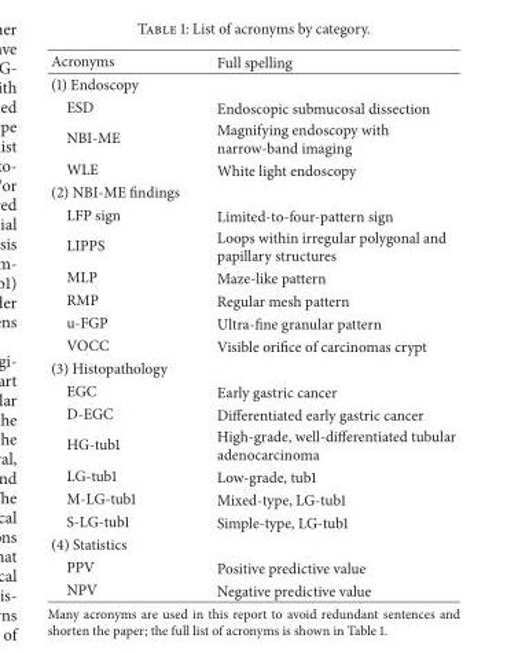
<table><thead><tr><td>Acronyms</td><td>Full spelling</td></tr></thead><tbody><tr><td colspan="2">(1) Endoscopy</td></tr><tr><td>ESD</td><td>Endoscopic submucosal dissection</td></tr><tr><td>NBI-ME</td><td>Magnifying endoscopy with narrow-band imaging</td></tr><tr><td>WLE</td><td>White light endoscopy</td></tr><tr><td colspan="2">(2) NBI-ME findings</td></tr><tr><td>LFP sign</td><td>Limited-to-four-pattern sign</td></tr><tr><td>LIPPS</td><td>Loops within irregular polygonal and papillary structures</td></tr><tr><td>MLP</td><td>Maze-like pattern</td></tr><tr><td>RMP</td><td>Regular mesh pattern</td></tr><tr><td>u-FGP</td><td>Ultra-fine granular pattern</td></tr><tr><td>VOCC</td><td>Visible orifice of carcinomas crypt</td></tr><tr><td colspan="2">(3) Histopathology</td></tr><tr><td>EGC</td><td>Early gastric cancer</td></tr><tr><td>D-EGC</td><td>Differentiated early gastric cancer</td></tr><tr><td>HG-tub1</td><td>High-grade, well-differentiated tubular adenocarcinoma</td></tr><tr><td>LG-tub1</td><td>Low-grade, tub1</td></tr><tr><td>M-LG-tub1</td><td>Mixed-type, LG-tub1</td></tr><tr><td>S-LG-tub1</td><td>Simple-type, LG-tub1</td></tr><tr><td colspan="2">(4) Statistics</td></tr><tr><td>PPV</td><td>Positive predictive value</td></tr><tr><td>NPV</td><td>Negative predictive value</td></tr></tbody></table>